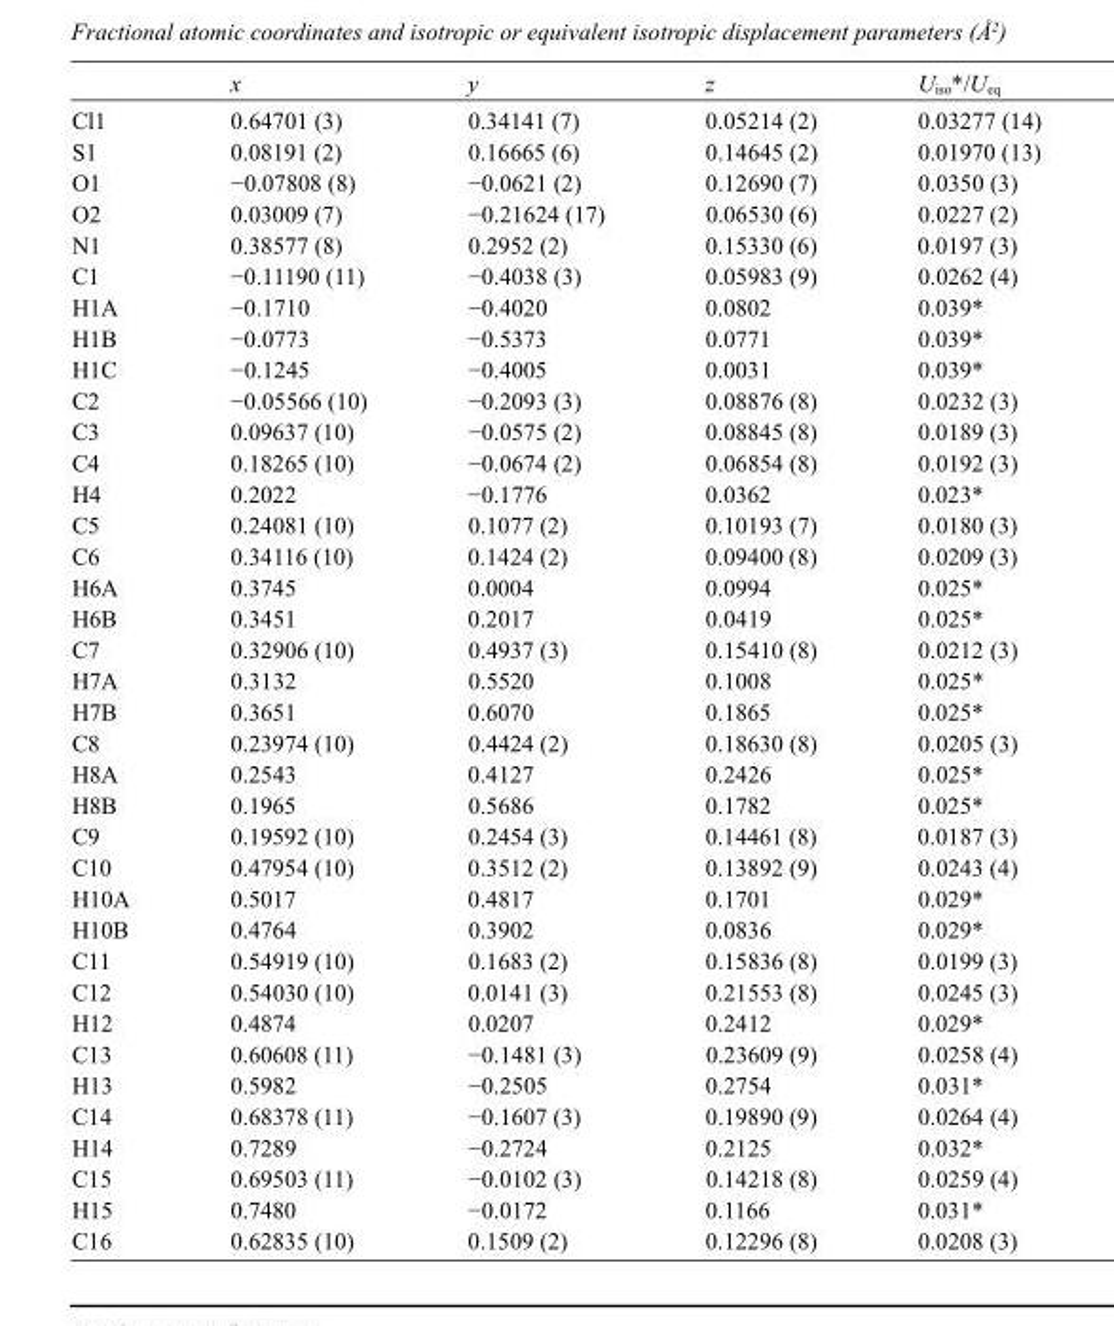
<table><thead><tr><td></td><td>x</td><td>y</td><td>z</td><td>U<sub>iso</sub>*/U<sub>eq</sub></td></tr></thead><tbody><tr><td>Cl1</td><td>0.64701 (3)</td><td>0.34141 (7)</td><td>0.05214 (2)</td><td>0.03277 (14)</td></tr><tr><td>S1</td><td>0.08191 (2)</td><td>0.16665 (6)</td><td>0.14645 (2)</td><td>0.01970 (13)</td></tr><tr><td>O1</td><td>−0.07808 (8)</td><td>−0.0621 (2)</td><td>0.12690 (7)</td><td>0.0350 (3)</td></tr><tr><td>O2</td><td>0.03009 (7)</td><td>−0.21624 (17)</td><td>0.06530 (6)</td><td>0.0227 (2)</td></tr><tr><td>N1</td><td>0.38577 (8)</td><td>0.2952 (2)</td><td>0.15330 (6)</td><td>0.0197 (3)</td></tr><tr><td>C1</td><td>−0.11190 (11)</td><td>−0.4038 (3)</td><td>0.05983 (9)</td><td>0.0262 (4)</td></tr><tr><td>H1A</td><td>−0.1710</td><td>−0.4020</td><td>0.0802</td><td>0.039*</td></tr><tr><td>H1B</td><td>−0.0773</td><td>−0.5373</td><td>0.0771</td><td>0.039*</td></tr><tr><td>H1C</td><td>−0.1245</td><td>−0.4005</td><td>0.0031</td><td>0.039*</td></tr><tr><td>C2</td><td>−0.05566 (10)</td><td>−0.2093 (3)</td><td>0.08876 (8)</td><td>0.0232 (3)</td></tr><tr><td>C3</td><td>0.09637 (10)</td><td>−0.0575 (2)</td><td>0.08845 (8)</td><td>0.0189 (3)</td></tr><tr><td>C4</td><td>0.18265 (10)</td><td>−0.0674 (2)</td><td>0.06854 (8)</td><td>0.0192 (3)</td></tr><tr><td>H4</td><td>0.2022</td><td>−0.1776</td><td>0.0362</td><td>0.023*</td></tr><tr><td>C5</td><td>0.24081 (10)</td><td>0.1077 (2)</td><td>0.10193 (7)</td><td>0.0180 (3)</td></tr><tr><td>C6</td><td>0.34116 (10)</td><td>0.1424 (2)</td><td>0.09400 (8)</td><td>0.0209 (3)</td></tr><tr><td>H6A</td><td>0.3745</td><td>0.0004</td><td>0.0994</td><td>0.025*</td></tr><tr><td>H6B</td><td>0.3451</td><td>0.2017</td><td>0.0419</td><td>0.025*</td></tr><tr><td>C7</td><td>0.32906 (10)</td><td>0.4937 (3)</td><td>0.15410 (8)</td><td>0.0212 (3)</td></tr><tr><td>H7A</td><td>0.3132</td><td>0.5520</td><td>0.1008</td><td>0.025*</td></tr><tr><td>H7B</td><td>0.3651</td><td>0.6070</td><td>0.1865</td><td>0.025*</td></tr><tr><td>C8</td><td>0.23974 (10)</td><td>0.4424 (2)</td><td>0.18630 (8)</td><td>0.0205 (3)</td></tr><tr><td>H8A</td><td>0.2543</td><td>0.4127</td><td>0.2426</td><td>0.025*</td></tr><tr><td>H8B</td><td>0.1965</td><td>0.5686</td><td>0.1782</td><td>0.025*</td></tr><tr><td>C9</td><td>0.19592 (10)</td><td>0.2454 (3)</td><td>0.14461 (8)</td><td>0.0187 (3)</td></tr><tr><td>C10</td><td>0.47954 (10)</td><td>0.3512 (2)</td><td>0.13892 (9)</td><td>0.0243 (4)</td></tr><tr><td>H10A</td><td>0.5017</td><td>0.4817</td><td>0.1701</td><td>0.029*</td></tr><tr><td>H10B</td><td>0.4764</td><td>0.3902</td><td>0.0836</td><td>0.029*</td></tr><tr><td>C11</td><td>0.54919 (10)</td><td>0.1683 (2)</td><td>0.15836 (8)</td><td>0.0199 (3)</td></tr><tr><td>C12</td><td>0.54030 (10)</td><td>0.0141 (3)</td><td>0.21553 (8)</td><td>0.0245 (3)</td></tr><tr><td>H12</td><td>0.4874</td><td>0.0207</td><td>0.2412</td><td>0.029*</td></tr><tr><td>C13</td><td>0.60608 (11)</td><td>−0.1481 (3)</td><td>0.23609 (9)</td><td>0.0258 (4)</td></tr><tr><td>H13</td><td>0.5982</td><td>−0.2505</td><td>0.2754</td><td>0.031*</td></tr><tr><td>C14</td><td>0.68378 (11)</td><td>−0.1607 (3)</td><td>0.19890 (9)</td><td>0.0264 (4)</td></tr><tr><td>H14</td><td>0.7289</td><td>−0.2724</td><td>0.2125</td><td>0.032*</td></tr><tr><td>C15</td><td>0.69503 (11)</td><td>−0.0102 (3)</td><td>0.14218 (8)</td><td>0.0259 (4)</td></tr><tr><td>H15</td><td>0.7480</td><td>−0.0172</td><td>0.1166</td><td>0.031*</td></tr><tr><td>C16</td><td>0.62835 (10)</td><td>0.1509 (2)</td><td>0.12296 (8)</td><td>0.0208 (3)</td></tr></tbody></table>